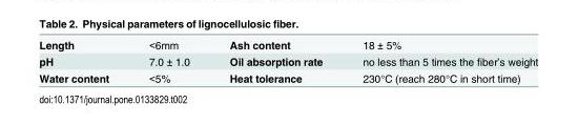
<table><tbody><tr><td>Length</td><td>&lt;6mm</td><td>Ash content</td><td>18 ± 5%</td></tr><tr><td>pH</td><td>7.0 ± 1.0</td><td>Oil absorption rate</td><td>no less than 5 times the fiber’s weight</td></tr><tr><td>Water content</td><td>&lt;5%</td><td>Heat tolerance</td><td>230°C (reach 280°C in short time)</td></tr></tbody></table>